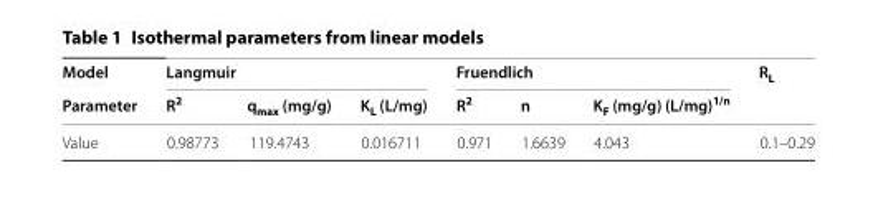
<table><thead><tr><td rowspan="2">Model Parameter</td><td colspan="3">Langmuir</td><td colspan="3">Fruendlich</td><td rowspan="2">R<sub>L</sub></td></tr><tr><td>R<sup>2</sup></td><td>q<sub>max</sub> (mg/g)</td><td>K<sub>L</sub> (L/mg)</td><td>R<sup>2</sup></td><td>n</td><td>K<sub>F</sub> (mg/g) (L/mg)<sup>1/n</sup></td></tr></thead><tbody><tr><td>Value</td><td>0.98773</td><td>119.4743</td><td>0.016711</td><td>0.971</td><td>1.6639</td><td>4.043</td><td>0.1–0.29</td></tr></tbody></table>